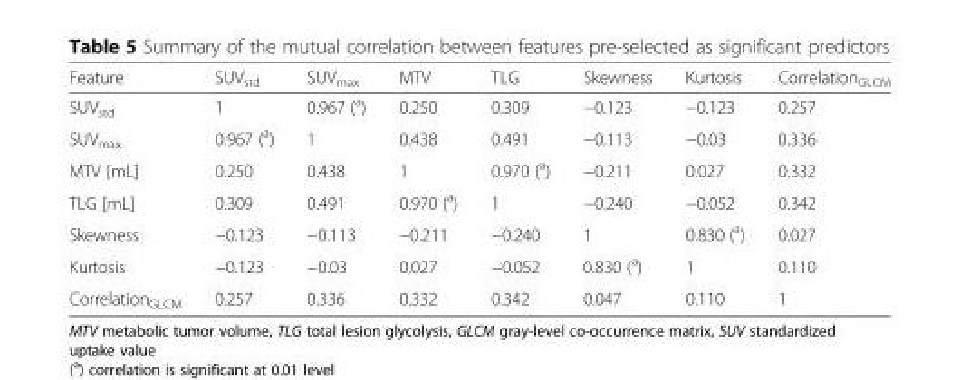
<table><thead><tr><td>Feature</td><td>SUV<sub>std</sub></td><td>SUV<sub>max</sub></td><td>MTV</td><td>TLG</td><td>Skewness</td><td>Kurtosis</td><td>Correlation<sub>GLCM</sub></td></tr></thead><tbody><tr><td>SUV<sub>std</sub></td><td>1</td><td>0.967 (<sup>a</sup>)</td><td>0.250</td><td>0.309</td><td>−0.123</td><td>−0.123</td><td>0.257</td></tr><tr><td>SUV<sub>max</sub></td><td>0.967 (<sup>a</sup>)</td><td>1</td><td>0.438</td><td>0.491</td><td>−0.113</td><td>−0.03</td><td>0.336</td></tr><tr><td>MTV [mL]</td><td>0.250</td><td>0.438</td><td>1</td><td>0.970 (<sup>a</sup>)</td><td>−0.211</td><td>0.027</td><td>0.332</td></tr><tr><td>TLG [mL]</td><td>0.309</td><td>0.491</td><td>0.970 (<sup>a</sup>)</td><td>1</td><td>−0.240</td><td>−0.052</td><td>0.342</td></tr><tr><td>Skewness</td><td>−0.123</td><td>−0.113</td><td>−0.211</td><td>−0.240</td><td>1</td><td>0.830 (<sup>a</sup>)</td><td>0.027</td></tr><tr><td>Kurtosis</td><td>−0.123</td><td>−0.03</td><td>0.027</td><td>−0.052</td><td>0.830 (<sup>a</sup>)</td><td>1</td><td>0.110</td></tr><tr><td>Correlation<sub>GLCM</sub></td><td>0.257</td><td>0.336</td><td>0.332</td><td>0.342</td><td>0.047</td><td>0.110</td><td>1</td></tr></tbody></table>